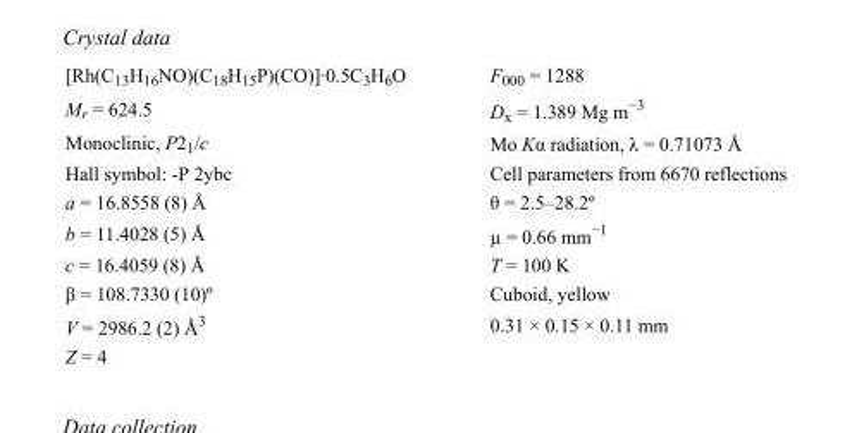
<table><tbody><tr><td>[Rh(C<sub>13</sub>H<sub>16</sub>NO)(C<sub>18</sub>H<sub>15</sub>P)(CO)]·0.5C<sub>3</sub>H<sub>6</sub>O</td><td>F000 = 1288</td></tr><tr><td>M<sub>r</sub> = 624.5</td><td>D<sub>x</sub> = 1.389 Mg m<sup>−3</sup></td></tr><tr><td>Monoclinic, P2<sub>1</sub>/c</td><td>Mo Kα radiation, λ = 0.71073 Å</td></tr><tr><td>Hall symbol: -P 2ybc</td><td>Cell parameters from 6670 reflections</td></tr><tr><td>a = 16.8558 (8) Å</td><td>θ = 2.5–28.2º</td></tr><tr><td>b = 11.4028 (5) Å</td><td>µ = 0.66 mm<sup>−1</sup></td></tr><tr><td>c = 16.4059 (8) Å</td><td>T = 100 K</td></tr><tr><td>β = 108.7330 (10)º</td><td>Cuboid, yellow</td></tr><tr><td>V = 2986.2 (2) Å<sup>3</sup></td><td>0.31 × 0.15 × 0.11 mm</td></tr><tr><td>Z = 4</td><td></td></tr></tbody></table>